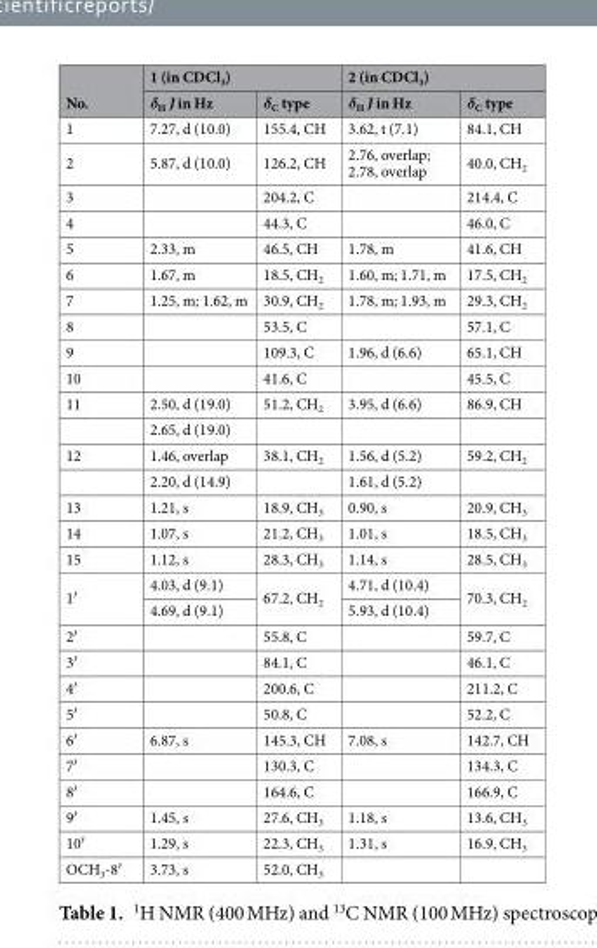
<table><thead><tr><td rowspan="2">No.</td><td colspan="2">1 (in CDCl<sub>3</sub>)</td><td colspan="2">2 (in CDCl<sub>3</sub>)</td></tr><tr><td>δ<sub>H</sub> J in Hz</td><td>δ<sub>C</sub> type</td><td>δ<sub>H</sub> J in Hz</td><td>δ<sub>C</sub> type</td></tr></thead><tbody><tr><td>1</td><td>7.27, d (10.0)</td><td>155.4, CH</td><td>3.62, t (7.1)</td><td>84.1, CH</td></tr><tr><td>2</td><td>5.87, d (10.0)</td><td>126.2, CH</td><td>2.76, overlap; 2.78, overlap</td><td>40.0, CH<sub>2</sub></td></tr><tr><td>3</td><td></td><td>204.2, C</td><td></td><td>214.4, C</td></tr><tr><td>4</td><td></td><td>44.3, C</td><td></td><td>46.0, C</td></tr><tr><td>5</td><td>2.33, m</td><td>46.5, CH</td><td>1.78, m</td><td>41.6, CH</td></tr><tr><td>6</td><td>1.67, m</td><td>18.5, CH<sub>2</sub></td><td>1.60, m; 1.71, m</td><td>17.5, CH<sub>2</sub></td></tr><tr><td>7</td><td>1.25, m; 1.62, m</td><td>30.9, CH<sub>2</sub></td><td>1.78, m; 1.93, m</td><td>29.3, CH<sub>2</sub></td></tr><tr><td>8</td><td></td><td>53.5, C</td><td></td><td>57.1, C</td></tr><tr><td>9</td><td></td><td>109.3, C</td><td>1.96, d (6.6)</td><td>65.1, CH</td></tr><tr><td>10</td><td></td><td>41.6, C</td><td></td><td>45.5, C</td></tr><tr><td rowspan="2">11</td><td>2.50, d (19.0)</td><td>51.2, CH<sub>2</sub></td><td>3.95, d (6.6)</td><td>86.9, CH</td></tr><tr><td>2.65, d (19.0)</td><td></td><td></td><td></td></tr><tr><td rowspan="2">12</td><td>1.46, overlap</td><td>38.1, CH<sub>2</sub></td><td>1.56, d (5.2)</td><td>59.2, CH<sub>2</sub></td></tr><tr><td>2.20, d (14.9)</td><td></td><td>1.61, d (5.2)</td><td></td></tr><tr><td>13</td><td>1.21, s</td><td>18.9, CH<sub>3</sub></td><td>0.90, s</td><td>20.9, CH<sub>3</sub></td></tr><tr><td>14</td><td>1.07, s</td><td>21.2, CH<sub>3</sub></td><td>1.01, s</td><td>18.5, CH<sub>3</sub></td></tr><tr><td>15</td><td>1.12, s</td><td>28.3, CH<sub>3</sub></td><td>1.14, s</td><td>28.5, CH<sub>3</sub></td></tr><tr><td rowspan="2">1′</td><td>4.03, d (9.1)</td><td rowspan="2">67.2, CH<sub>2</sub></td><td>4.71, d (10.4)</td><td rowspan="2">70.3, CH<sub>2</sub></td></tr><tr><td>4.69, d (9.1)</td><td>5.93, d (10.4)</td></tr><tr><td>2′</td><td></td><td>55.8, C</td><td></td><td>59.7, C</td></tr><tr><td>3′</td><td></td><td>84.1, C</td><td></td><td>46.1, C</td></tr><tr><td>4′</td><td></td><td>200.6, C</td><td></td><td>211.2, C</td></tr><tr><td>5′</td><td></td><td>50.8, C</td><td></td><td>52.2, C</td></tr><tr><td>6′</td><td>6.87, s</td><td>145.3, CH</td><td>7.08, s</td><td>142.7, CH</td></tr><tr><td>7′</td><td></td><td>130.3, C</td><td></td><td>134.3, C</td></tr><tr><td>8′</td><td></td><td>164.6, C</td><td></td><td>166.9, C</td></tr><tr><td>9′</td><td>1.45, s</td><td>27.6, CH<sub>3</sub></td><td>1.18, s</td><td>13.6, CH<sub>3</sub></td></tr><tr><td>10′</td><td>1.29, s</td><td>22.3, CH<sub>3</sub></td><td>1.31, s</td><td>16.9, CH<sub>3</sub></td></tr><tr><td>OCH<sub>3</sub>-8′</td><td>3.73, s</td><td>52.0, CH<sub>3</sub></td><td></td><td></td></tr></tbody></table>